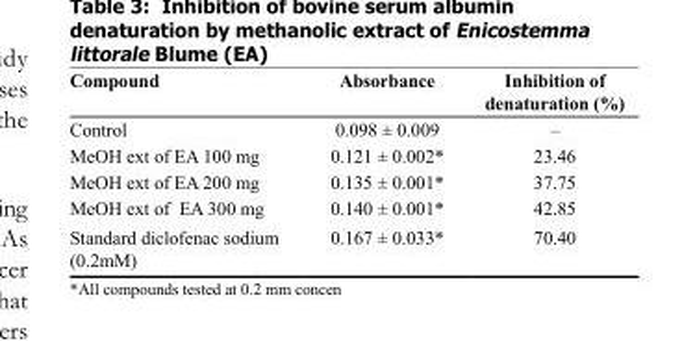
<table><thead><tr><td>Compound</td><td>Absorbance</td><td>Inhibition of denaturation (%)</td></tr></thead><tbody><tr><td>Control</td><td>0.098 ± 0.009</td><td>–</td></tr><tr><td>MeOH ext of EA 100 mg</td><td>0.121 ± 0.002*</td><td>23.46</td></tr><tr><td>MeOH ext of EA 200 mg</td><td>0.135 ± 0.001*</td><td>37.75</td></tr><tr><td>MeOH ext of EA 300 mg</td><td>0.140 ± 0.001*</td><td>42.85</td></tr><tr><td>Standard diclofenac sodium (0.2mM)</td><td>0.167 ± 0.033*</td><td>70.40</td></tr></tbody></table>